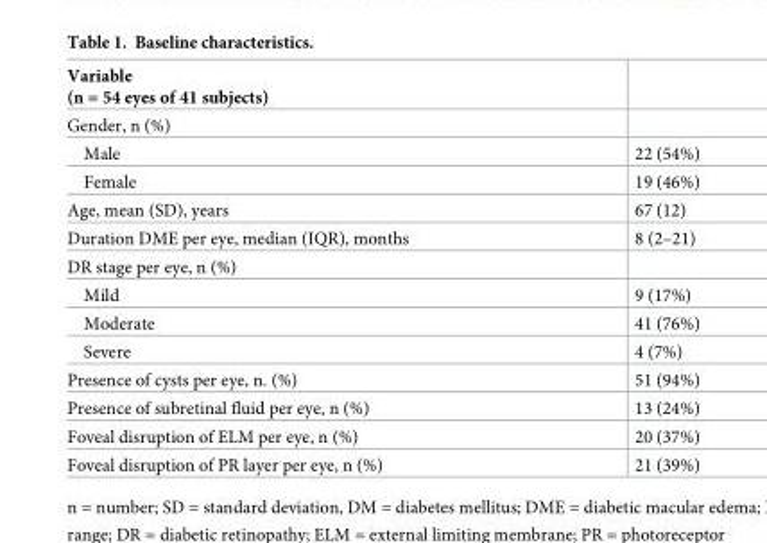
<table><thead><tr><td>Variable (n = 54 eyes of 41 subjects)</td><td></td></tr></thead><tbody><tr><td colspan="2">Gender, n (%)</td></tr><tr><td>Male</td><td>22 (54%)</td></tr><tr><td>Female</td><td>19 (46%)</td></tr><tr><td>Age, mean (SD), years</td><td>67 (12)</td></tr><tr><td>Duration DME per eye, median (IQR), months</td><td>8 (2–21)</td></tr><tr><td colspan="2">DR stage per eye, n (%)</td></tr><tr><td>Mild</td><td>9 (17%)</td></tr><tr><td>Moderate</td><td>41 (76%)</td></tr><tr><td>Severe</td><td>4 (7%)</td></tr><tr><td>Presence of cysts per eye, n. (%)</td><td>51 (94%)</td></tr><tr><td>Presence of subretinal fluid per eye, n (%)</td><td>13 (24%)</td></tr><tr><td>Foveal disruption of ELM per eye, n (%)</td><td>20 (37%)</td></tr><tr><td>Foveal disruption of PR layer per eye, n (%)</td><td>21 (39%)</td></tr></tbody></table>